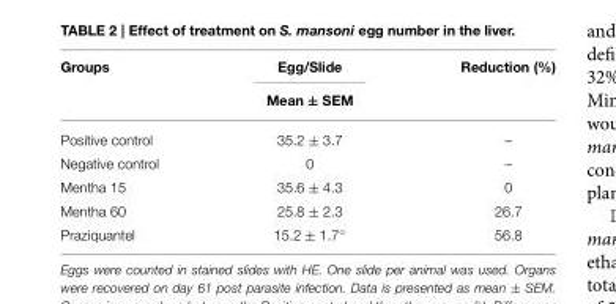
<table><thead><tr><td rowspan="2">Groups</td><td rowspan="2">Egg/Slide Mean ± SEM</td><td rowspan="2">Reduction (%)</td></tr><tr></tr></thead><tbody><tr><td>Positive control</td><td>35.2 ± 3.7</td><td>–</td></tr><tr><td>Negative control</td><td>0</td><td>–</td></tr><tr><td>Mentha 15</td><td>35.6 ± 4.3</td><td>0</td></tr><tr><td>Mentha 60</td><td>25.8 ± 2.3</td><td>26.7</td></tr><tr><td>Praziquantel</td><td>15.2 ± 1.7◦</td><td>56.8</td></tr></tbody></table>